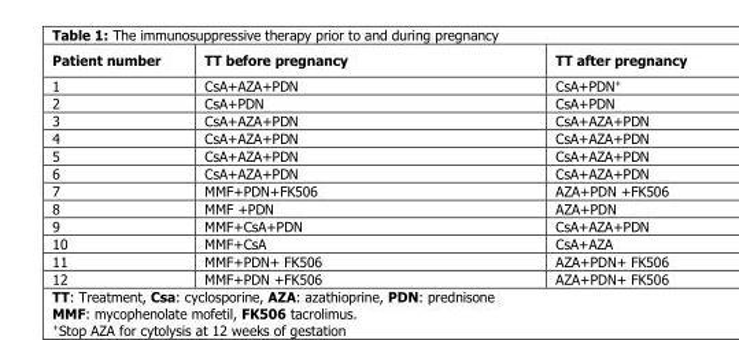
<table><thead><tr><td>Patient number</td><td>TT before pregnancy</td><td>TT after pregnancy</td></tr></thead><tbody><tr><td>1</td><td>CsA+AZA+PDN</td><td>CsA+PDN<sup>+</sup></td></tr><tr><td>2</td><td>CsA+PDN</td><td>CsA+PDN</td></tr><tr><td>3</td><td>CsA+AZA+PDN</td><td>CsA+AZA+PDN</td></tr><tr><td>4</td><td>CsA+AZA+PDN</td><td>CsA+AZA+PDN</td></tr><tr><td>5</td><td>CsA+AZA+PDN</td><td>CsA+AZA+PDN</td></tr><tr><td>6</td><td>CsA+AZA+PDN</td><td>CsA+AZA+PDN</td></tr><tr><td>7</td><td>MMF+PDN+FK506</td><td>AZA+PDN +FK506</td></tr><tr><td>8</td><td>MMF +PDN</td><td>AZA+PDN</td></tr><tr><td>9</td><td>MMF+CsA+PDN</td><td>CsA+AZA+PDN</td></tr><tr><td>10</td><td>MMF+CsA</td><td>CsA+AZA</td></tr><tr><td>11</td><td>MMF+PDN+ FK506</td><td>AZA+PDN+ FK506</td></tr><tr><td>12</td><td>MMF+PDN +FK506</td><td>AZA+PDN+ FK506</td></tr></tbody></table>